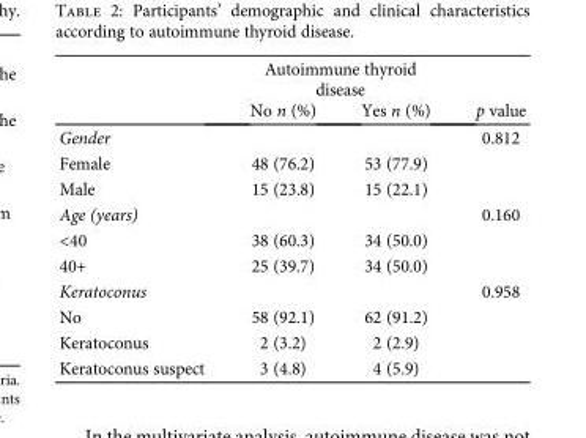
<table><thead><tr><td rowspan="2"></td><td colspan="2">Autoimmune thyroid disease</td><td rowspan="2">p value</td></tr><tr><td>No n (%)</td><td>Yes n (%)</td></tr></thead><tbody><tr><td>Gender</td><td></td><td></td><td>0.812</td></tr><tr><td>Female</td><td>48 (76.2)</td><td>53 (77.9)</td><td></td></tr><tr><td>Male</td><td>15 (23.8)</td><td>15 (22.1)</td><td></td></tr><tr><td>Age (years)</td><td></td><td></td><td>0.160</td></tr><tr><td>&lt;40</td><td>38 (60.3)</td><td>34 (50.0)</td><td></td></tr><tr><td>40+</td><td>25 (39.7)</td><td>34 (50.0)</td><td></td></tr><tr><td>Keratoconus</td><td></td><td></td><td>0.958</td></tr><tr><td>No</td><td>58 (92.1)</td><td>62 (91.2)</td><td></td></tr><tr><td>Keratoconus</td><td>2 (3.2)</td><td>2 (2.9)</td><td></td></tr><tr><td>Keratoconus suspect</td><td>3 (4.8)</td><td>4 (5.9)</td><td></td></tr></tbody></table>